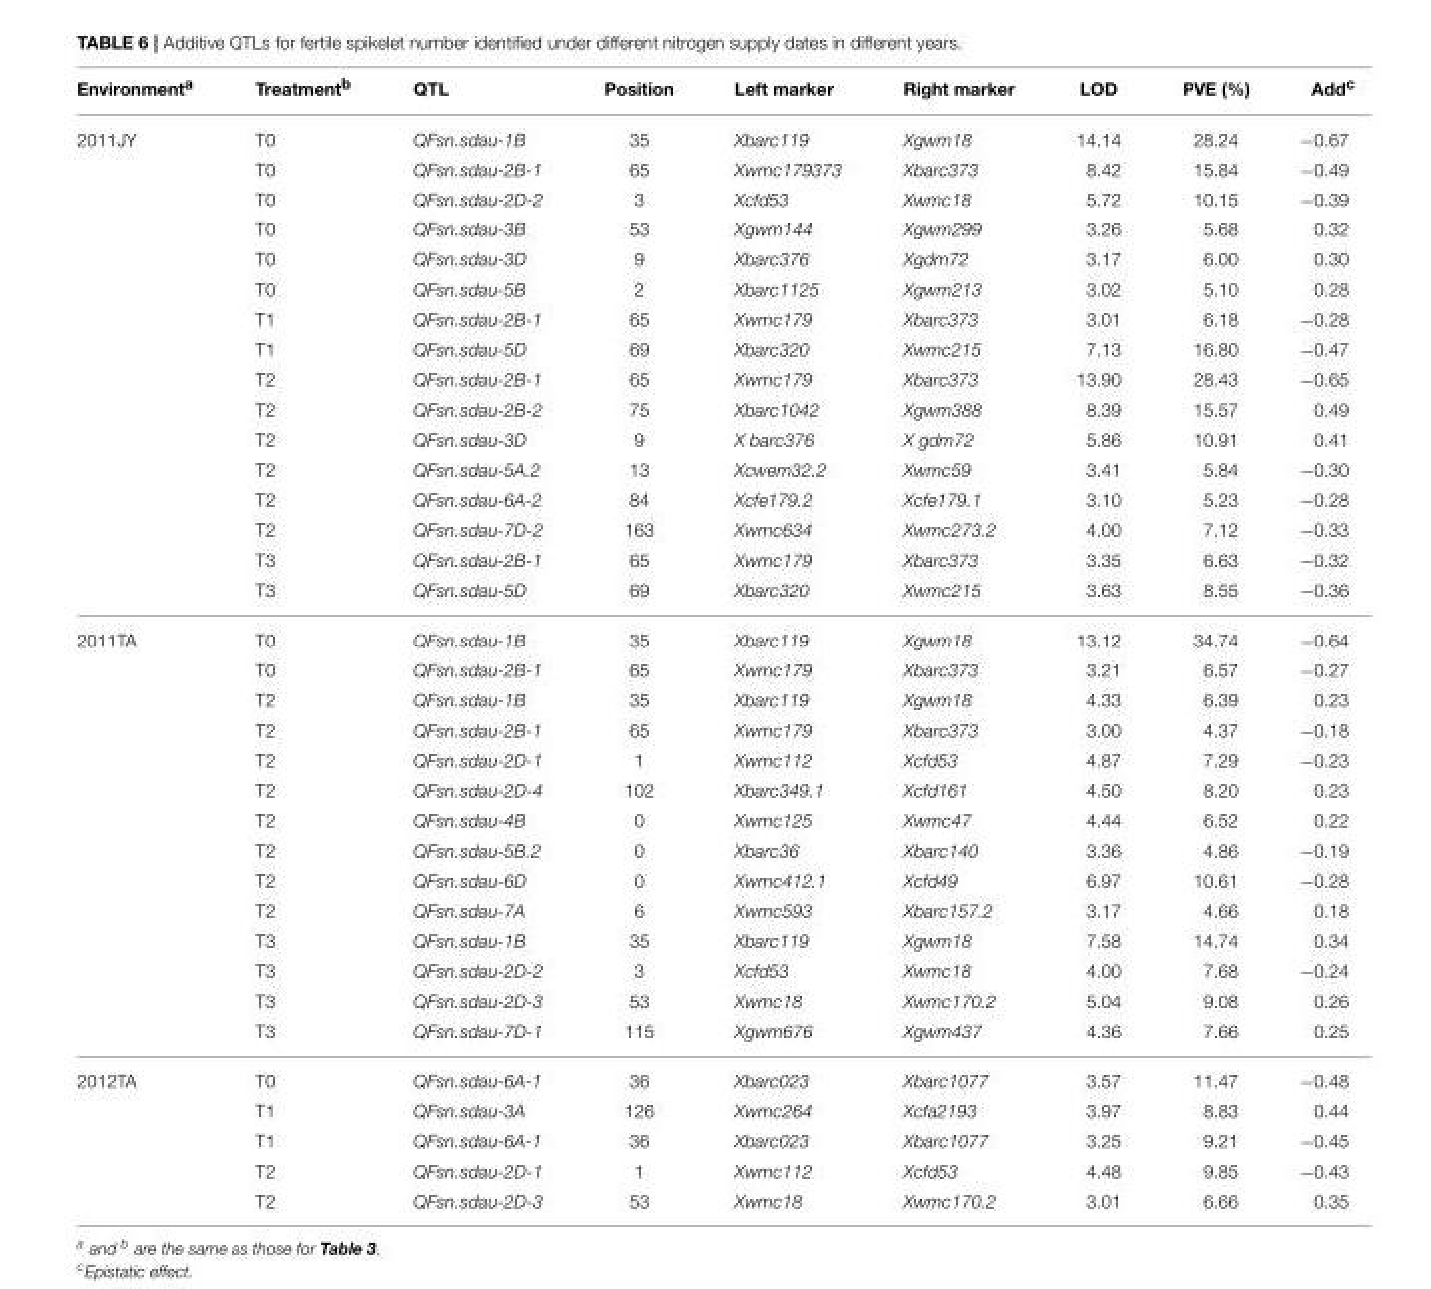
<table><thead><tr><td>Environment<sup>a</sup></td><td>Treatment<sup>b</sup></td><td>QTL</td><td>Position</td><td>Left marker</td><td>Right marker</td><td>LOD</td><td>PVE (%)</td><td>Add<sup>c</sup></td></tr></thead><tbody><tr><td rowspan="16">2011JY</td><td>T0</td><td>QFsn.sdau-1B</td><td>35</td><td>Xbarc119</td><td>Xgwm18</td><td>14.14</td><td>28.24</td><td>−0.67</td></tr><tr><td>T0</td><td>QFsn.sdau-2B-1</td><td>65</td><td>Xwmc179373</td><td>Xbarc373</td><td>8.42</td><td>15.84</td><td>−0.49</td></tr><tr><td>T0</td><td>QFsn.sdau-2D-2</td><td>3</td><td>Xcfd53</td><td>Xwmc18</td><td>5.72</td><td>10.15</td><td>−0.39</td></tr><tr><td>T0</td><td>QFsn.sdau-3B</td><td>53</td><td>Xgwm144</td><td>Xgwm299</td><td>3.26</td><td>5.68</td><td>0.32</td></tr><tr><td>T0</td><td>QFsn.sdau-3D</td><td>9</td><td>Xbarc376</td><td>Xgdm72</td><td>3.17</td><td>6.00</td><td>0.30</td></tr><tr><td>T0</td><td>QFsn.sdau-5B</td><td>2</td><td>Xbarc1125</td><td>Xgwm213</td><td>3.02</td><td>5.10</td><td>0.28</td></tr><tr><td>T1</td><td>QFsn.sdau-2B-1</td><td>65</td><td>Xwmc179</td><td>Xbarc373</td><td>3.01</td><td>6.18</td><td>−0.28</td></tr><tr><td>T1</td><td>QFsn.sdau-5D</td><td>69</td><td>Xbarc320</td><td>Xwmc215</td><td>7.13</td><td>16.80</td><td>−0.47</td></tr><tr><td>T2</td><td>QFsn.sdau-2B-1</td><td>65</td><td>Xwmc179</td><td>Xbarc373</td><td>13.90</td><td>28.43</td><td>−0.65</td></tr><tr><td>T2</td><td>QFsn.sdau-2B-2</td><td>75</td><td>Xbarc1042</td><td>Xgwm388</td><td>8.39</td><td>15.57</td><td>0.49</td></tr><tr><td>T2</td><td>QFsn.sdau-3D</td><td>9</td><td>X barc376</td><td>X gdm72</td><td>5.86</td><td>10.91</td><td>0.41</td></tr><tr><td>T2</td><td>QFsn.sdau-5A.2</td><td>13</td><td>Xcwem32.2</td><td>Xwmc59</td><td>3.41</td><td>5.84</td><td>−0.30</td></tr><tr><td>T2</td><td>QFsn.sdau-6A-2</td><td>84</td><td>Xcfe179.2</td><td>Xcfe179.1</td><td>3.10</td><td>5.23</td><td>−0.28</td></tr><tr><td>T2</td><td>QFsn.sdau-7D-2</td><td>163</td><td>Xwmc634</td><td>Xwmc273.2</td><td>4.00</td><td>7.12</td><td>−0.33</td></tr><tr><td>T3</td><td>QFsn.sdau-2B-1</td><td>65</td><td>Xwmc179</td><td>Xbarc373</td><td>3.35</td><td>6.63</td><td>−0.32</td></tr><tr><td>T3</td><td>QFsn.sdau-5D</td><td>69</td><td>Xbarc320</td><td>Xwmc215</td><td>3.63</td><td>8.55</td><td>−0.36</td></tr><tr><td rowspan="14">2011TA</td><td>T0</td><td>QFsn.sdau-1B</td><td>35</td><td>Xbarc119</td><td>Xgwm18</td><td>13.12</td><td>34.74</td><td>−0.64</td></tr><tr><td>T0</td><td>QFsn.sdau-2B-1</td><td>65</td><td>Xwmc179</td><td>Xbarc373</td><td>3.21</td><td>6.57</td><td>−0.27</td></tr><tr><td>T2</td><td>QFsn.sdau-1B</td><td>35</td><td>Xbarc119</td><td>Xgwm18</td><td>4.33</td><td>6.39</td><td>0.23</td></tr><tr><td>T2</td><td>QFsn.sdau-2B-1</td><td>65</td><td>Xwmc179</td><td>Xbarc373</td><td>3.00</td><td>4.37</td><td>−0.18</td></tr><tr><td>T2</td><td>QFsn.sdau-2D-1</td><td>1</td><td>Xwmc112</td><td>Xcfd53</td><td>4.87</td><td>7.29</td><td>−0.23</td></tr><tr><td>T2</td><td>QFsn.sdau-2D-4</td><td>102</td><td>Xbarc349.1</td><td>Xcfd161</td><td>4.50</td><td>8.20</td><td>0.23</td></tr><tr><td>T2</td><td>QFsn.sdau-4B</td><td>0</td><td>Xwmc125</td><td>Xwmc47</td><td>4.44</td><td>6.52</td><td>0.22</td></tr><tr><td>T2</td><td>QFsn.sdau-5B.2</td><td>0</td><td>Xbarc36</td><td>Xbarc140</td><td>3.36</td><td>4.86</td><td>−0.19</td></tr><tr><td>T2</td><td>QFsn.sdau-6D</td><td>0</td><td>Xwmc412.1</td><td>Xcfd49</td><td>6.97</td><td>10.61</td><td>−0.28</td></tr><tr><td>T2</td><td>QFsn.sdau-7A</td><td>6</td><td>Xwmc593</td><td>Xbarc157.2</td><td>3.17</td><td>4.66</td><td>0.18</td></tr><tr><td>T3</td><td>QFsn.sdau-1B</td><td>35</td><td>Xbarc119</td><td>Xgwm18</td><td>7.58</td><td>14.74</td><td>0.34</td></tr><tr><td>T3</td><td>QFsn.sdau-2D-2</td><td>3</td><td>Xcfd53</td><td>Xwmc18</td><td>4.00</td><td>7.68</td><td>−0.24</td></tr><tr><td>T3</td><td>QFsn.sdau-2D-3</td><td>53</td><td>Xwmc18</td><td>Xwmc170.2</td><td>5.04</td><td>9.08</td><td>0.26</td></tr><tr><td>T3</td><td>QFsn.sdau-7D-1</td><td>115</td><td>Xgwm676</td><td>Xgwm437</td><td>4.36</td><td>7.66</td><td>0.25</td></tr><tr><td rowspan="5">2012TA</td><td>T0</td><td>QFsn.sdau-6A-1</td><td>36</td><td>Xbarc023</td><td>Xbarc1077</td><td>3.57</td><td>11.47</td><td>−0.48</td></tr><tr><td>T1</td><td>QFsn.sdau-3A</td><td>126</td><td>Xwmc264</td><td>Xcfa2193</td><td>3.97</td><td>8.83</td><td>0.44</td></tr><tr><td>T1</td><td>QFsn.sdau-6A-1</td><td>36</td><td>Xbarc023</td><td>Xbarc1077</td><td>3.25</td><td>9.21</td><td>−0.45</td></tr><tr><td>T2</td><td>QFsn.sdau-2D-1</td><td>1</td><td>Xwmc112</td><td>Xcfd53</td><td>4.48</td><td>9.85</td><td>−0.43</td></tr><tr><td>T2</td><td>QFsn.sdau-2D-3</td><td>53</td><td>Xwmc18</td><td>Xwmc170.2</td><td>3.01</td><td>6.66</td><td>0.35</td></tr></tbody></table>